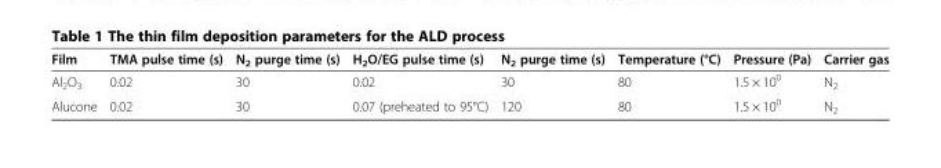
<table><thead><tr><td>Film</td><td>TMA pulse time (s)</td><td>N<sub>2</sub> purge time (s)</td><td>H<sub>2</sub>O/EG pulse time (s)</td><td>N<sub>2</sub> purge time (s)</td><td>Temperature (°C)</td><td>Pressure (Pa)</td><td>Carrier gas</td></tr></thead><tbody><tr><td>Al<sub>2</sub>O<sub>3</sub></td><td>0.02</td><td>30</td><td>0.02</td><td>30</td><td>80</td><td>1.5 × 10<sup>0</sup></td><td>N<sub>2</sub></td></tr><tr><td>Alucone</td><td>0.02</td><td>30</td><td>0.07 (preheated to 95°C)</td><td>120</td><td>80</td><td>1.5 × 10<sup>0</sup></td><td>N<sub>2</sub></td></tr></tbody></table>